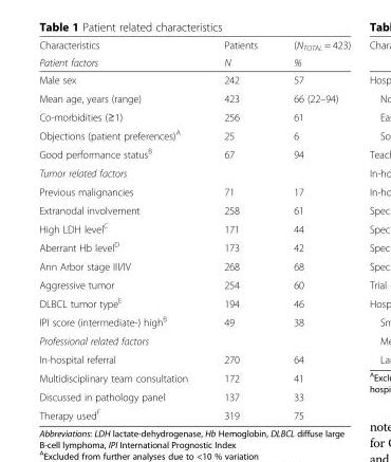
<table><thead><tr><td rowspan="2">Characteristics Patient factors</td><td rowspan="2">Patients N</td><td rowspan="2">(N<sub>TOTAL</sub> = 423) %</td></tr><tr></tr></thead><tbody><tr><td>Male sex</td><td>242</td><td>57</td></tr><tr><td>Mean age, years (range)</td><td>423</td><td>66 (22–94)</td></tr><tr><td>Co-morbidities (≥1)</td><td>256</td><td>61</td></tr><tr><td>Objections (patient preferences)<sup>A</sup></td><td>25</td><td>6</td></tr><tr><td>Good performance status<sup>B</sup></td><td>67</td><td>94</td></tr><tr><td colspan="3">Tumor related factors</td></tr><tr><td>Previous malignancies</td><td>71</td><td>17</td></tr><tr><td>Extranodal involvement</td><td>258</td><td>61</td></tr><tr><td>High LDH level<sup>C</sup></td><td>171</td><td>44</td></tr><tr><td>Aberrant Hb level<sup>D</sup></td><td>173</td><td>42</td></tr><tr><td>Ann Arbor stage III/IV</td><td>268</td><td>68</td></tr><tr><td>Aggressive tumor</td><td>254</td><td>60</td></tr><tr><td>DLBCL tumor type<sup>E</sup></td><td>194</td><td>46</td></tr><tr><td>IPI score (intermediate-) high<sup>B</sup></td><td>49</td><td>38</td></tr><tr><td colspan="3">Professional related factors</td></tr><tr><td>In-hospital referral</td><td>270</td><td>64</td></tr><tr><td>Multidisciplinary team consultation</td><td>172</td><td>41</td></tr><tr><td>Discussed in pathology panel</td><td>137</td><td>33</td></tr><tr><td>Therapy used<sup>F</sup></td><td>319</td><td>75</td></tr></tbody></table>